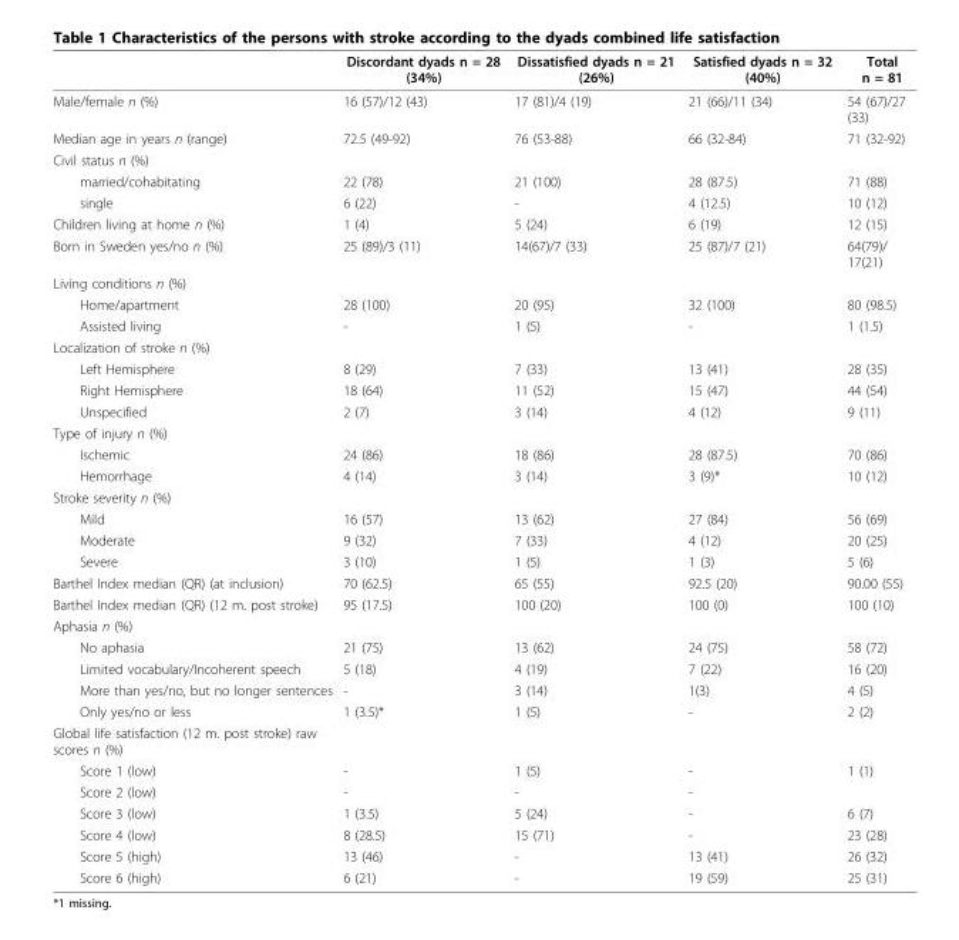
<table><thead><tr><td></td><td>Discordant dyads n = 28 (34%)</td><td>Dissatisfied dyads n = 21 (26%)</td><td>Satisfied dyads n = 32 (40%)</td><td>Total n = 81</td></tr></thead><tbody><tr><td>Male/female n (%)</td><td>16 (57)/12 (43)</td><td>17 (81)/4 (19)</td><td>21 (66)/11 (34)</td><td>54 (67)/27 (33)</td></tr><tr><td>Median age in years n (range)</td><td>72.5 (49-92)</td><td>76 (53-88)</td><td>66 (32-84)</td><td>71 (32-92)</td></tr><tr><td colspan="5">Civil status n (%)</td></tr><tr><td>married/cohabitating</td><td>22 (78)</td><td>21 (100)</td><td>28 (87.5)</td><td>71 (88)</td></tr><tr><td>single</td><td>6 (22)</td><td>-</td><td>4 (12.5)</td><td>10 (12)</td></tr><tr><td>Children living at home n (%)</td><td>1 (4)</td><td>5 (24)</td><td>6 (19)</td><td>12 (15)</td></tr><tr><td>Born in Sweden yes/no n (%)</td><td>25 (89)/3 (11)</td><td>14(67)/7 (33)</td><td>25 (87)/7 (21)</td><td>64(79)/ 17(21)</td></tr><tr><td colspan="5">Living conditions n (%)</td></tr><tr><td>Home/apartment</td><td>28 (100)</td><td>20 (95)</td><td>32 (100)</td><td>80 (98.5)</td></tr><tr><td>Assisted living</td><td>-</td><td>1 (5)</td><td>-</td><td>1 (1.5)</td></tr><tr><td colspan="5">Localization of stroke n (%)</td></tr><tr><td>Left Hemisphere</td><td>8 (29)</td><td>7 (33)</td><td>13 (41)</td><td>28 (35)</td></tr><tr><td>Right Hemisphere</td><td>18 (64)</td><td>11 (52)</td><td>15 (47)</td><td>44 (54)</td></tr><tr><td>Unspecified</td><td>2 (7)</td><td>3 (14)</td><td>4 (12)</td><td>9 (11)</td></tr><tr><td colspan="5">Type of injury n (%)</td></tr><tr><td>Ischemic</td><td>24 (86)</td><td>18 (86)</td><td>28 (87.5)</td><td>70 (86)</td></tr><tr><td>Hemorrhage</td><td>4 (14)</td><td>3 (14)</td><td>3 (9)*</td><td>10 (12)</td></tr><tr><td colspan="5">Stroke severity n (%)</td></tr><tr><td>Mild</td><td>16 (57)</td><td>13 (62)</td><td>27 (84)</td><td>56 (69)</td></tr><tr><td>Moderate</td><td>9 (32)</td><td>7 (33)</td><td>4 (12)</td><td>20 (25)</td></tr><tr><td>Severe</td><td>3 (10)</td><td>1 (5)</td><td>1 (3)</td><td>5 (6)</td></tr><tr><td>Barthel Index median (QR) (at inclusion)</td><td>70 (62.5)</td><td>65 (55)</td><td>92.5 (20)</td><td>90.00 (55)</td></tr><tr><td>Barthel Index median (QR) (12 m. post stroke)</td><td>95 (17.5)</td><td>100 (20)</td><td>100 (0)</td><td>100 (10)</td></tr><tr><td colspan="5">Aphasia n (%)</td></tr><tr><td>No aphasia</td><td>21 (75)</td><td>13 (62)</td><td>24 (75)</td><td>58 (72)</td></tr><tr><td>Limited vocabulary/Incoherent speech</td><td>5 (18)</td><td>4 (19)</td><td>7 (22)</td><td>16 (20)</td></tr><tr><td>More than yes/no, but no longer sentences</td><td>-</td><td>3 (14)</td><td>1(3)</td><td>4 (5)</td></tr><tr><td>Only yes/no or less</td><td>1 (3.5)*</td><td>1 (5)</td><td>-</td><td>2 (2)</td></tr><tr><td colspan="5">Global life satisfaction (12 m. post stroke) raw scores n (%)</td></tr><tr><td>Score 1 (low)</td><td>-</td><td>1 (5)</td><td>-</td><td>1 (1)</td></tr><tr><td>Score 2 (low)</td><td>-</td><td>-</td><td>-</td><td></td></tr><tr><td>Score 3 (low)</td><td>1 (3.5)</td><td>5 (24)</td><td>-</td><td>6 (7)</td></tr><tr><td>Score 4 (low)</td><td>8 (28.5)</td><td>15 (71)</td><td>-</td><td>23 (28)</td></tr><tr><td>Score 5 (high)</td><td>13 (46)</td><td>-</td><td>13 (41)</td><td>26 (32)</td></tr><tr><td>Score 6 (high)</td><td>6 (21)</td><td>-</td><td>19 (59)</td><td>25 (31)</td></tr></tbody></table>